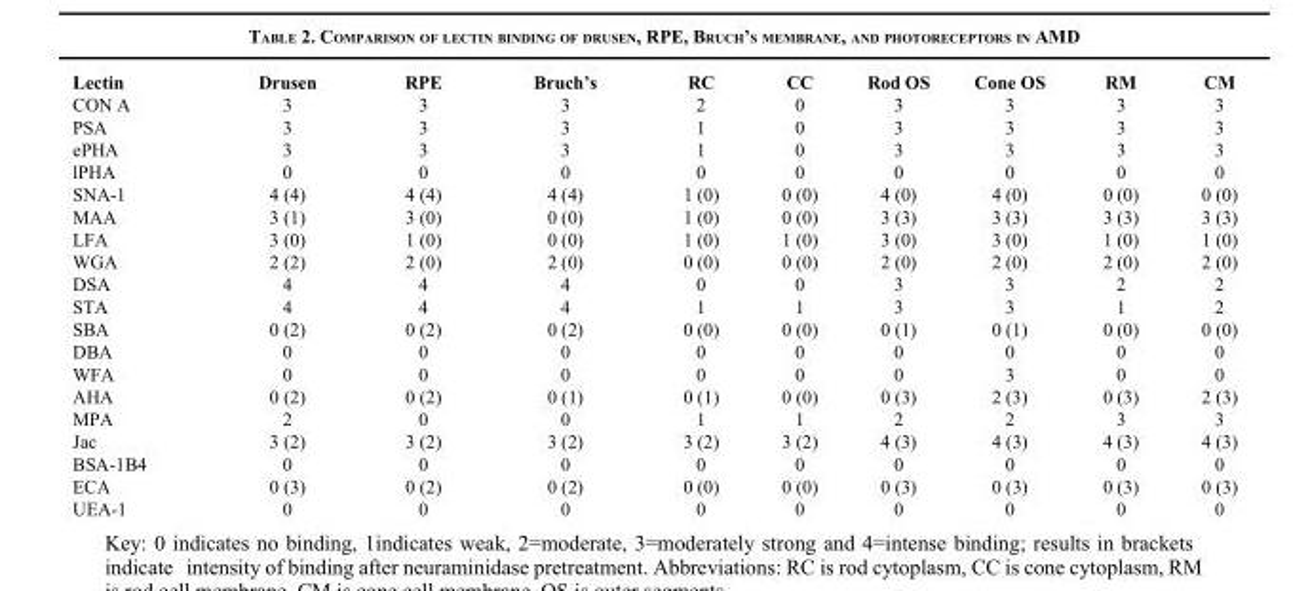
<table><thead><tr><td>Lectin</td><td>Drusen</td><td>RPE</td><td>Bruch’s</td><td>RC</td><td>CC</td><td>Rod OS</td><td>Cone OS</td><td>RM</td><td>CM</td></tr></thead><tbody><tr><td>CON A</td><td>3</td><td>3</td><td>3</td><td>2</td><td>0</td><td>3</td><td>3</td><td>3</td><td>3</td></tr><tr><td>PSA</td><td>3</td><td>3</td><td>3</td><td>1</td><td>0</td><td>3</td><td>3</td><td>3</td><td>3</td></tr><tr><td>ePHA</td><td>3</td><td>3</td><td>3</td><td>1</td><td>0</td><td>3</td><td>3</td><td>3</td><td>3</td></tr><tr><td>lPHA</td><td>0</td><td>0</td><td>0</td><td>0</td><td>0</td><td>0</td><td>0</td><td>0</td><td>0</td></tr><tr><td>SNA-1</td><td>4 (4)</td><td>4 (4)</td><td>4 (4)</td><td>1 (0)</td><td>0 (0)</td><td>4 (0)</td><td>4 (0)</td><td>0 (0)</td><td>0 (0)</td></tr><tr><td>MAA</td><td>3 (1)</td><td>3 (0)</td><td>0 (0)</td><td>1 (0)</td><td>0 (0)</td><td>3 (3)</td><td>3 (3)</td><td>3 (3)</td><td>3 (3)</td></tr><tr><td>LFA</td><td>3 (0)</td><td>1 (0)</td><td>0 (0)</td><td>1 (0)</td><td>1 (0)</td><td>3 (0)</td><td>3 (0)</td><td>1 (0)</td><td>1 (0)</td></tr><tr><td>WGA</td><td>2 (2)</td><td>2 (0)</td><td>2 (0)</td><td>0 (0)</td><td>0 (0)</td><td>2 (0)</td><td>2 (0)</td><td>2 (0)</td><td>2 (0)</td></tr><tr><td>DSA</td><td>4</td><td>4</td><td>4</td><td>0</td><td>0</td><td>3</td><td>3</td><td>2</td><td>2</td></tr><tr><td>STA</td><td>4</td><td>4</td><td>4</td><td>1</td><td>1</td><td>3</td><td>3</td><td>1</td><td>2</td></tr><tr><td>SBA</td><td>0 (2)</td><td>0 (2)</td><td>0 (2)</td><td>0 (0)</td><td>0 (0)</td><td>0 (1)</td><td>0 (1)</td><td>0 (0)</td><td>0 (0)</td></tr><tr><td>DBA</td><td>0</td><td>0</td><td>0</td><td>0</td><td>0</td><td>0</td><td>0</td><td>0</td><td>0</td></tr><tr><td>WFA</td><td>0</td><td>0</td><td>0</td><td>0</td><td>0</td><td>0</td><td>3</td><td>0</td><td>0</td></tr><tr><td>AHA</td><td>0 (2)</td><td>0 (2)</td><td>0 (1)</td><td>0 (1)</td><td>0 (0)</td><td>0 (3)</td><td>2 (3)</td><td>0 (3)</td><td>2 (3)</td></tr><tr><td>MPA</td><td>2</td><td>0</td><td>0</td><td>1</td><td>1</td><td>2</td><td>2</td><td>3</td><td>3</td></tr><tr><td>Jac</td><td>3 (2)</td><td>3 (2)</td><td>3 (2)</td><td>3 (2)</td><td>3 (2)</td><td>4 (3)</td><td>4 (3)</td><td>4 (3)</td><td>4 (3)</td></tr><tr><td>BSA-1B4</td><td>0</td><td>0</td><td>0</td><td>0</td><td>0</td><td>0</td><td>0</td><td>0</td><td>0</td></tr><tr><td>ECA</td><td>0 (3)</td><td>0 (2)</td><td>0 (2)</td><td>0 (0)</td><td>0 (0)</td><td>0 (3)</td><td>0 (3)</td><td>0 (3)</td><td>0 (3)</td></tr><tr><td>UEA-1</td><td>0</td><td>0</td><td>0</td><td>0</td><td>0</td><td>0</td><td>0</td><td>0</td><td>0</td></tr></tbody></table>